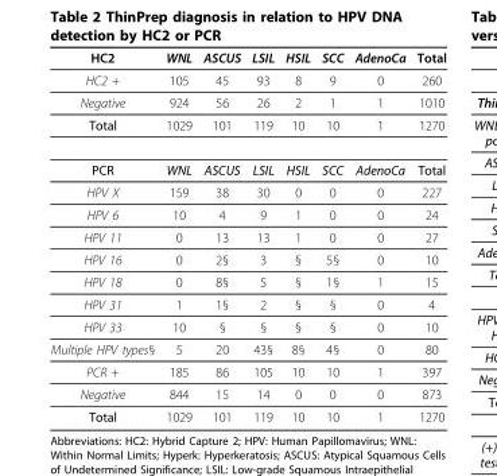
<table><thead><tr><td>HC2</td><td>WNL</td><td>ASCUS</td><td>LSIL</td><td>HSIL</td><td>SCC</td><td>AdenoCa</td><td>Total</td></tr></thead><tbody><tr><td>HC2 +</td><td>105</td><td>45</td><td>93</td><td>8</td><td>9</td><td>0</td><td>260</td></tr><tr><td>Negative</td><td>924</td><td>56</td><td>26</td><td>2</td><td>1</td><td>1</td><td>1010</td></tr><tr><td>Total</td><td>1029</td><td>101</td><td>119</td><td>10</td><td>10</td><td>1</td><td>1270</td></tr><tr><td>PCR</td><td>WNL</td><td>ASCUS</td><td>LSIL</td><td>HSIL</td><td>SCC</td><td>AdenoCa</td><td>Total</td></tr><tr><td>HPV X</td><td>159</td><td>38</td><td>30</td><td>0</td><td>0</td><td>0</td><td>227</td></tr><tr><td>HPV 6</td><td>10</td><td>4</td><td>9</td><td>1</td><td>0</td><td>0</td><td>24</td></tr><tr><td>HPV 11</td><td>0</td><td>13</td><td>13</td><td>1</td><td>0</td><td>0</td><td>27</td></tr><tr><td>HPV 16</td><td>0</td><td>2§</td><td>3</td><td>§</td><td>5§</td><td>0</td><td>10</td></tr><tr><td>HPV 18</td><td>0</td><td>8§</td><td>5</td><td>§</td><td>1§</td><td>1</td><td>15</td></tr><tr><td>HPV 31</td><td>1</td><td>1§</td><td>2</td><td>§</td><td>§</td><td>0</td><td>4</td></tr><tr><td>HPV 33</td><td>10</td><td>§</td><td>§</td><td>§</td><td>§</td><td>0</td><td>10</td></tr><tr><td>Multiple HPV types§</td><td>5</td><td>20</td><td>43§</td><td>8§</td><td>4§</td><td>0</td><td>80</td></tr><tr><td>PCR +</td><td>185</td><td>86</td><td>105</td><td>10</td><td>10</td><td>1</td><td>397</td></tr><tr><td>Negative</td><td>844</td><td>15</td><td>14</td><td>0</td><td>0</td><td>0</td><td>873</td></tr><tr><td>Total</td><td>1029</td><td>101</td><td>119</td><td>10</td><td>10</td><td>1</td><td>1270</td></tr></tbody></table>